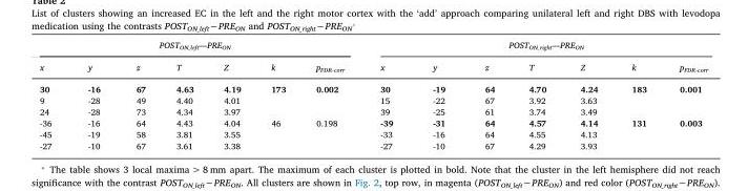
<table><thead><tr><td colspan="7">POST<sub>ON_left</sub>―PRE<sub>ON</sub></td><td colspan="7">POST<sub>ON_right</sub>―PRE<sub>ON</sub></td></tr><tr><td>x</td><td>y</td><td>z</td><td>T</td><td>Z</td><td>k</td><td>p<sub>FDR-corr</sub></td><td>x</td><td>y</td><td>z</td><td>T</td><td>Z</td><td>k</td><td>p<sub>FDR-corr</sub></td></tr></thead><tbody><tr><td>30</td><td>-16</td><td>67</td><td>4.63</td><td>4.19</td><td>173</td><td>0.002</td><td>30</td><td>-19</td><td>64</td><td>4.70</td><td>4.24</td><td>183</td><td>0.001</td></tr><tr><td>9</td><td>-28</td><td>49</td><td>4.40</td><td>4.01</td><td></td><td></td><td>15</td><td>-22</td><td>67</td><td>3.92</td><td>3.63</td><td></td><td></td></tr><tr><td>24</td><td>-28</td><td>73</td><td>4.34</td><td>3.97</td><td></td><td></td><td>39</td><td>-25</td><td>61</td><td>3.74</td><td>3.49</td><td></td><td></td></tr><tr><td>-36</td><td>-16</td><td>64</td><td>4.43</td><td>4.04</td><td>46</td><td>0.198</td><td>-39</td><td>-31</td><td>64</td><td>4.57</td><td>4.14</td><td>131</td><td>0.003</td></tr><tr><td>-45</td><td>-19</td><td>58</td><td>3.81</td><td>3.55</td><td></td><td></td><td>-33</td><td>-16</td><td>64</td><td>4.55</td><td>4.13</td><td></td><td></td></tr><tr><td>-27</td><td>-10</td><td>67</td><td>3.61</td><td>3.38</td><td></td><td></td><td>-27</td><td>-10</td><td>67</td><td>4.29</td><td>3.93</td><td></td><td></td></tr></tbody></table>